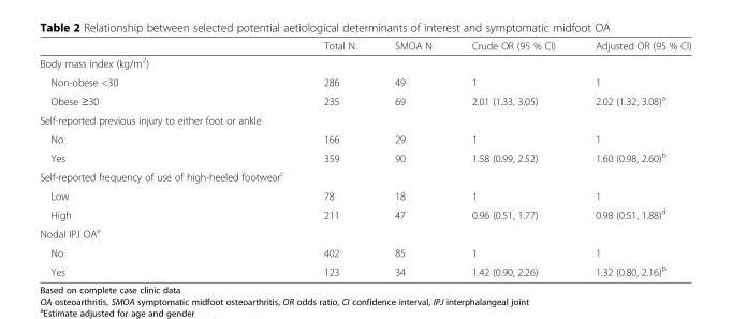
<table><thead><tr><td></td><td>Total N</td><td>SMOA N</td><td>Crude OR (95 % CI)</td><td>Adjusted OR (95 % CI)</td></tr></thead><tbody><tr><td colspan="5">Body mass index (kg/m<sup>2</sup>)</td></tr><tr><td>Non-obese &lt;30</td><td>286</td><td>49</td><td>1</td><td>1</td></tr><tr><td>Obese ≥30</td><td>235</td><td>69</td><td>2.01 (1.33, 3.05)</td><td>2.02 (1.32, 3.08)<sup>a</sup></td></tr><tr><td colspan="5">Self-reported previous injury to either foot or ankle</td></tr><tr><td>No</td><td>166</td><td>29</td><td>1</td><td>1</td></tr><tr><td>Yes</td><td>359</td><td>90</td><td>1.58 (0.99, 2.52)</td><td>1.60 (0.98, 2.60)<sup>b</sup></td></tr><tr><td colspan="5">Self-reported frequency of use of high-heeled footwear<sup>c</sup></td></tr><tr><td>Low</td><td>78</td><td>18</td><td>1</td><td>1</td></tr><tr><td>High</td><td>211</td><td>47</td><td>0.96 (0.51, 1.77)</td><td>0.98 (0.51, 1.88)<sup>d</sup></td></tr><tr><td colspan="5">Nodal IPJ OA<sup>e</sup></td></tr><tr><td>No</td><td>402</td><td>85</td><td>1</td><td>1</td></tr><tr><td>Yes</td><td>123</td><td>34</td><td>1.42 (0.90, 2.26)</td><td>1.32 (0.80, 2.16)<sup>b</sup></td></tr></tbody></table>